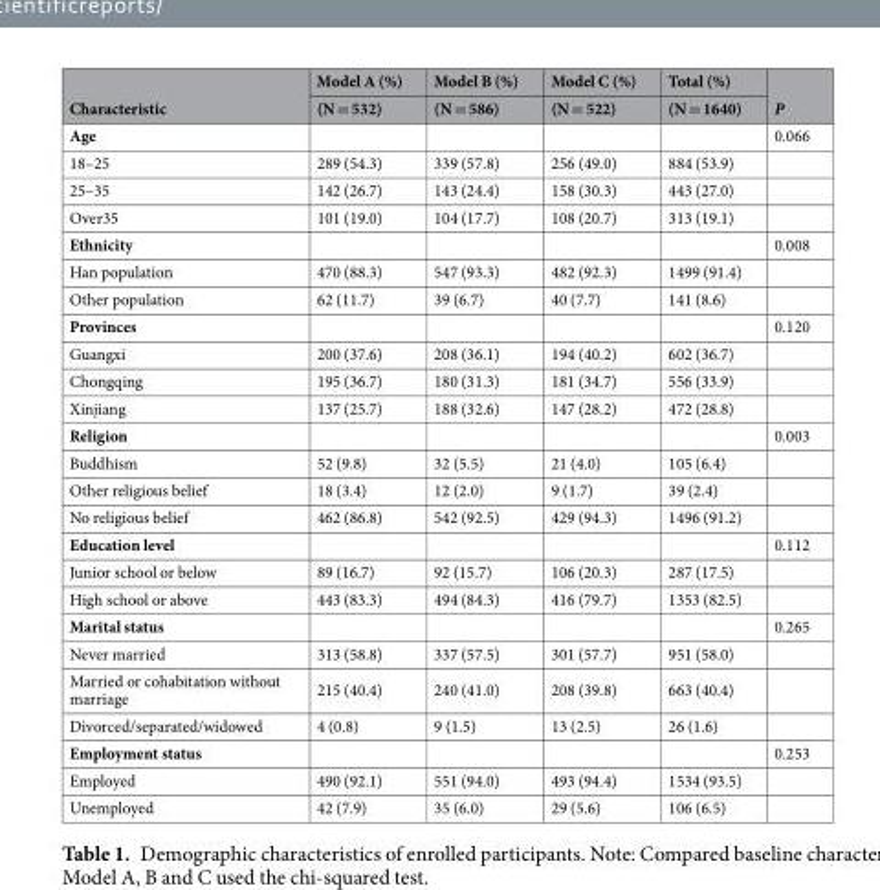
<table><thead><tr><td rowspan="2">Characteristic</td><td rowspan="2">Model A (%) (N = 532)</td><td rowspan="2">Model B (%) (N = 586)</td><td rowspan="2">Model C (%) (N = 522)</td><td rowspan="2">Total (%) (N = 1640)</td><td rowspan="2">P</td></tr><tr></tr></thead><tbody><tr><td>Age</td><td></td><td></td><td></td><td></td><td>0.066</td></tr><tr><td>18–25</td><td>289 (54.3)</td><td>339 (57.8)</td><td>256 (49.0)</td><td>884 (53.9)</td><td></td></tr><tr><td>25–35</td><td>142 (26.7)</td><td>143 (24.4)</td><td>158 (30.3)</td><td>443 (27.0)</td><td></td></tr><tr><td>Over35</td><td>101 (19.0)</td><td>104 (17.7)</td><td>108 (20.7)</td><td>313 (19.1)</td><td></td></tr><tr><td>Ethnicity</td><td></td><td></td><td></td><td></td><td>0.008</td></tr><tr><td>Han population</td><td>470 (88.3)</td><td>547 (93.3)</td><td>482 (92.3)</td><td>1499 (91.4)</td><td></td></tr><tr><td>Other population</td><td>62 (11.7)</td><td>39 (6.7)</td><td>40 (7.7)</td><td>141 (8.6)</td><td></td></tr><tr><td>Provinces</td><td></td><td></td><td></td><td></td><td>0.120</td></tr><tr><td>Guangxi</td><td>200 (37.6)</td><td>208 (36.1)</td><td>194 (40.2)</td><td>602 (36.7)</td><td></td></tr><tr><td>Chongqing</td><td>195 (36.7)</td><td>180 (31.3)</td><td>181 (34.7)</td><td>556 (33.9)</td><td></td></tr><tr><td>Xinjiang</td><td>137 (25.7)</td><td>188 (32.6)</td><td>147 (28.2)</td><td>472 (28.8)</td><td></td></tr><tr><td>Religion</td><td></td><td></td><td></td><td></td><td>0.003</td></tr><tr><td>Buddhism</td><td>52 (9.8)</td><td>32 (5.5)</td><td>21 (4.0)</td><td>105 (6.4)</td><td></td></tr><tr><td>Other religious belief</td><td>18 (3.4)</td><td>12 (2.0)</td><td>9 (1.7)</td><td>39 (2.4)</td><td></td></tr><tr><td>No religious belief</td><td>462 (86.8)</td><td>542 (92.5)</td><td>429 (94.3)</td><td>1496 (91.2)</td><td></td></tr><tr><td>Education level</td><td></td><td></td><td></td><td></td><td>0.112</td></tr><tr><td>Junior school or below</td><td>89 (16.7)</td><td>92 (15.7)</td><td>106 (20.3)</td><td>287 (17.5)</td><td></td></tr><tr><td>High school or above</td><td>443 (83.3)</td><td>494 (84.3)</td><td>416 (79.7)</td><td>1353 (82.5)</td><td></td></tr><tr><td>Marital status</td><td></td><td></td><td></td><td></td><td>0.265</td></tr><tr><td>Never married</td><td>313 (58.8)</td><td>337 (57.5)</td><td>301 (57.7)</td><td>951 (58.0)</td><td></td></tr><tr><td>Married or cohabitation without marriage</td><td>215 (40.4)</td><td>240 (41.0)</td><td>208 (39.8)</td><td>663 (40.4)</td><td></td></tr><tr><td>Divorced/separated/widowed</td><td>4 (0.8)</td><td>9 (1.5)</td><td>13 (2.5)</td><td>26 (1.6)</td><td></td></tr><tr><td>Employment status</td><td></td><td></td><td></td><td></td><td>0.253</td></tr><tr><td>Employed</td><td>490 (92.1)</td><td>551 (94.0)</td><td>493 (94.4)</td><td>1534 (93.5)</td><td></td></tr><tr><td>Unemployed</td><td>42 (7.9)</td><td>35 (6.0)</td><td>29 (5.6)</td><td>106 (6.5)</td><td></td></tr></tbody></table>